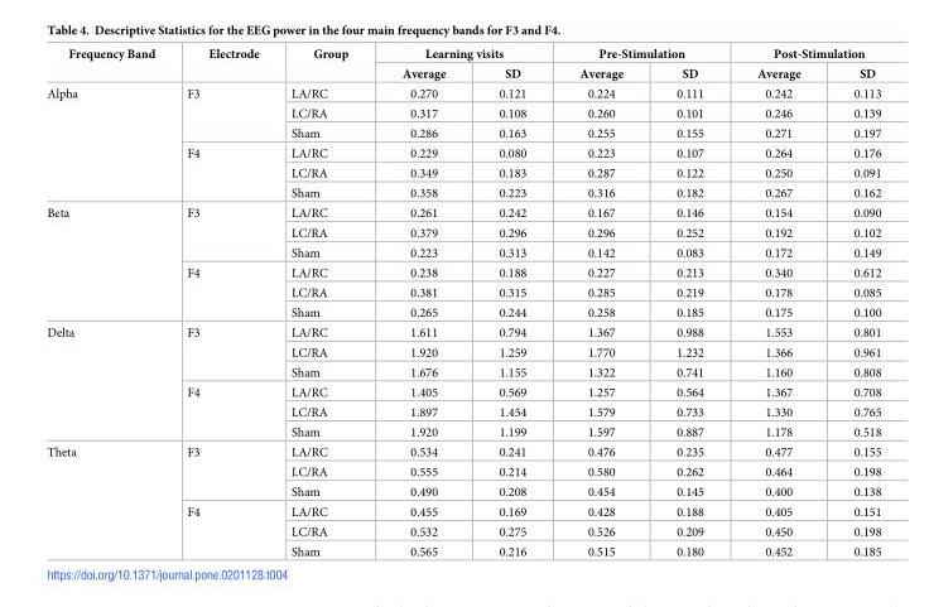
<table><thead><tr><td rowspan="2">Frequency Band</td><td rowspan="2">Electrode</td><td rowspan="2">Group</td><td colspan="2">Learning visits</td><td colspan="2">Pre-Stimulation</td><td colspan="2">Post-Stimulation</td></tr><tr><td>Average</td><td>SD</td><td>Average</td><td>SD</td><td>Average</td><td>SD</td></tr></thead><tbody><tr><td rowspan="6">Alpha</td><td rowspan="3">F3</td><td>LA/RC</td><td>0.270</td><td>0.121</td><td>0.224</td><td>0.111</td><td>0.242</td><td>0.113</td></tr><tr><td>LC/RA</td><td>0.317</td><td>0.108</td><td>0.260</td><td>0.101</td><td>0.246</td><td>0.139</td></tr><tr><td>Sham</td><td>0.286</td><td>0.163</td><td>0.255</td><td>0.155</td><td>0.271</td><td>0.197</td></tr><tr><td rowspan="3">F4</td><td>LA/RC</td><td>0.229</td><td>0.080</td><td>0.223</td><td>0.107</td><td>0.264</td><td>0.176</td></tr><tr><td>LC/RA</td><td>0.349</td><td>0.183</td><td>0.287</td><td>0.122</td><td>0.250</td><td>0.091</td></tr><tr><td>Sham</td><td>0.358</td><td>0.223</td><td>0.316</td><td>0.182</td><td>0.267</td><td>0.162</td></tr><tr><td rowspan="6">Beta</td><td rowspan="3">F3</td><td>LA/RC</td><td>0.261</td><td>0.242</td><td>0.167</td><td>0.146</td><td>0.154</td><td>0.090</td></tr><tr><td>LC/RA</td><td>0.379</td><td>0.296</td><td>0.296</td><td>0.252</td><td>0.192</td><td>0.102</td></tr><tr><td>Sham</td><td>0.223</td><td>0.313</td><td>0.142</td><td>0.083</td><td>0.172</td><td>0.149</td></tr><tr><td rowspan="3">F4</td><td>LA/RC</td><td>0.238</td><td>0.188</td><td>0.227</td><td>0.213</td><td>0.340</td><td>0.612</td></tr><tr><td>LC/RA</td><td>0.381</td><td>0.315</td><td>0.285</td><td>0.219</td><td>0.178</td><td>0.085</td></tr><tr><td>Sham</td><td>0.265</td><td>0.244</td><td>0.258</td><td>0.185</td><td>0.175</td><td>0.100</td></tr><tr><td rowspan="6">Delta</td><td rowspan="3">F3</td><td>LA/RC</td><td>1.611</td><td>0.794</td><td>1.367</td><td>0.988</td><td>1.553</td><td>0.801</td></tr><tr><td>LC/RA</td><td>1.920</td><td>1.259</td><td>1.770</td><td>1.232</td><td>1.366</td><td>0.961</td></tr><tr><td>Sham</td><td>1.676</td><td>1.155</td><td>1.322</td><td>0.741</td><td>1.160</td><td>0.808</td></tr><tr><td rowspan="3">F4</td><td>LA/RC</td><td>1.405</td><td>0.569</td><td>1.257</td><td>0.564</td><td>1.367</td><td>0.708</td></tr><tr><td>LC/RA</td><td>1.897</td><td>1.454</td><td>1.579</td><td>0.733</td><td>1.330</td><td>0.765</td></tr><tr><td>Sham</td><td>1.920</td><td>1.199</td><td>1.597</td><td>0.887</td><td>1.178</td><td>0.518</td></tr><tr><td rowspan="6">Theta</td><td rowspan="3">F3</td><td>LA/RC</td><td>0.534</td><td>0.241</td><td>0.476</td><td>0.235</td><td>0.477</td><td>0.155</td></tr><tr><td>LC/RA</td><td>0.555</td><td>0.214</td><td>0.580</td><td>0.262</td><td>0.464</td><td>0.198</td></tr><tr><td>Sham</td><td>0.490</td><td>0.208</td><td>0.454</td><td>0.145</td><td>0.400</td><td>0.138</td></tr><tr><td rowspan="3">F4</td><td>LA/RC</td><td>0.455</td><td>0.169</td><td>0.428</td><td>0.188</td><td>0.405</td><td>0.151</td></tr><tr><td>LC/RA</td><td>0.532</td><td>0.275</td><td>0.526</td><td>0.209</td><td>0.450</td><td>0.198</td></tr><tr><td>Sham</td><td>0.565</td><td>0.216</td><td>0.515</td><td>0.180</td><td>0.452</td><td>0.185</td></tr></tbody></table>